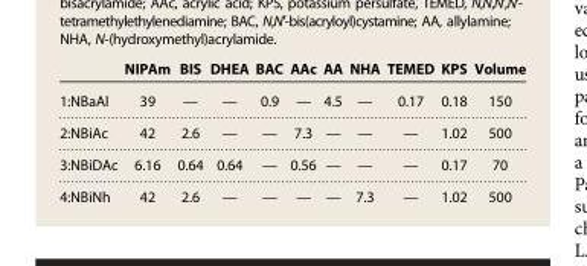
<table><thead><tr><td></td><td>NIPAm</td><td>BIS</td><td>DHEA</td><td>BAC</td><td>AAc</td><td>AA</td><td>NHA</td><td>TEMED</td><td>KPS</td><td>Volume</td></tr></thead><tbody><tr><td>1:NBaAl</td><td>39</td><td>—</td><td>—</td><td>0.9</td><td>—</td><td>4.5</td><td>—</td><td>0.17</td><td>0.18</td><td>150</td></tr><tr><td>2:NBiAc</td><td>42</td><td>2.6</td><td>—</td><td>—</td><td>7.3</td><td>—</td><td>—</td><td>—</td><td>1.02</td><td>500</td></tr><tr><td>3:NBiDAc</td><td>6.16</td><td>0.64</td><td>0.64</td><td>—</td><td>0.56</td><td>—</td><td>—</td><td>—</td><td>0.17</td><td>70</td></tr><tr><td>4:NBiNh</td><td>42</td><td>2.6</td><td>—</td><td>—</td><td>—</td><td>—</td><td>7.3</td><td>—</td><td>1.02</td><td>500</td></tr></tbody></table>